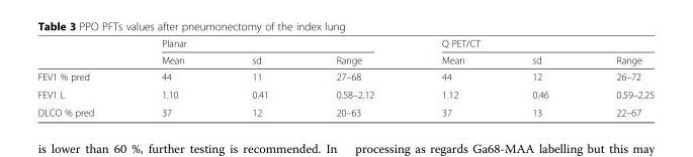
<table><thead><tr><td rowspan="2"></td><td colspan="3">Planar</td><td colspan="3">Q PET/CT</td></tr><tr><td>Mean</td><td>sd</td><td>Range</td><td>Mean</td><td>sd</td><td>Range</td></tr></thead><tbody><tr><td>FEV1 % pred</td><td>44</td><td>11</td><td>27–68</td><td>44</td><td>12</td><td>26–72</td></tr><tr><td>FEV1 L</td><td>1.10</td><td>0.41</td><td>0.58–2.12</td><td>1.12</td><td>0.46</td><td>0.59–2.25</td></tr><tr><td>DLCO % pred</td><td>37</td><td>12</td><td>20–63</td><td>37</td><td>13</td><td>22–67</td></tr></tbody></table>